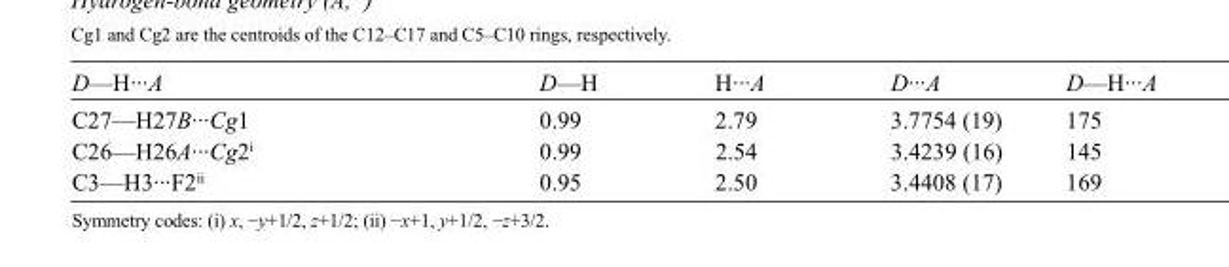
<table><tbody><tr><td>D—H···A</td><td>D—H</td><td>H···A</td><td>D···A</td><td>D—H···A</td></tr><tr><td>C27—H27B···Cg1</td><td>0.99</td><td>2.79</td><td>3.7754 (19)</td><td>175</td></tr><tr><td>C26—H26A···Cg2<sup>i</sup></td><td>0.99</td><td>2.54</td><td>3.4239 (16)</td><td>145</td></tr><tr><td>C3—H3···F2<sup>ii</sup></td><td>0.95</td><td>2.50</td><td>3.4408 (17)</td><td>169</td></tr></tbody></table>